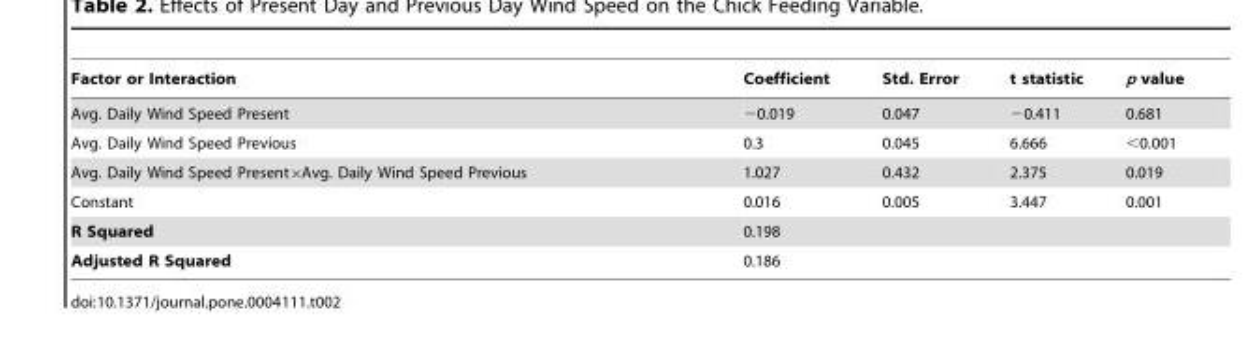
<table><thead><tr><td>Factor or Interaction</td><td>Coefficient</td><td>Std. Error</td><td>t statistic</td><td>p value</td></tr></thead><tbody><tr><td>Avg. Daily Wind Speed Present</td><td>−0.019</td><td>0.047</td><td>−0.411</td><td>0.681</td></tr><tr><td>Avg. Daily Wind Speed Previous</td><td>0.3</td><td>0.045</td><td>6.666</td><td>&lt;0.001</td></tr><tr><td>Avg. Daily Wind Speed Present×Avg. Daily Wind Speed Previous</td><td>1.027</td><td>0.432</td><td>2.375</td><td>0.019</td></tr><tr><td>Constant</td><td>0.016</td><td>0.005</td><td>3.447</td><td>0.001</td></tr><tr><td>R Squared</td><td>0.198</td><td></td><td></td><td></td></tr><tr><td>Adjusted R Squared</td><td>0.186</td><td></td><td></td><td></td></tr></tbody></table>